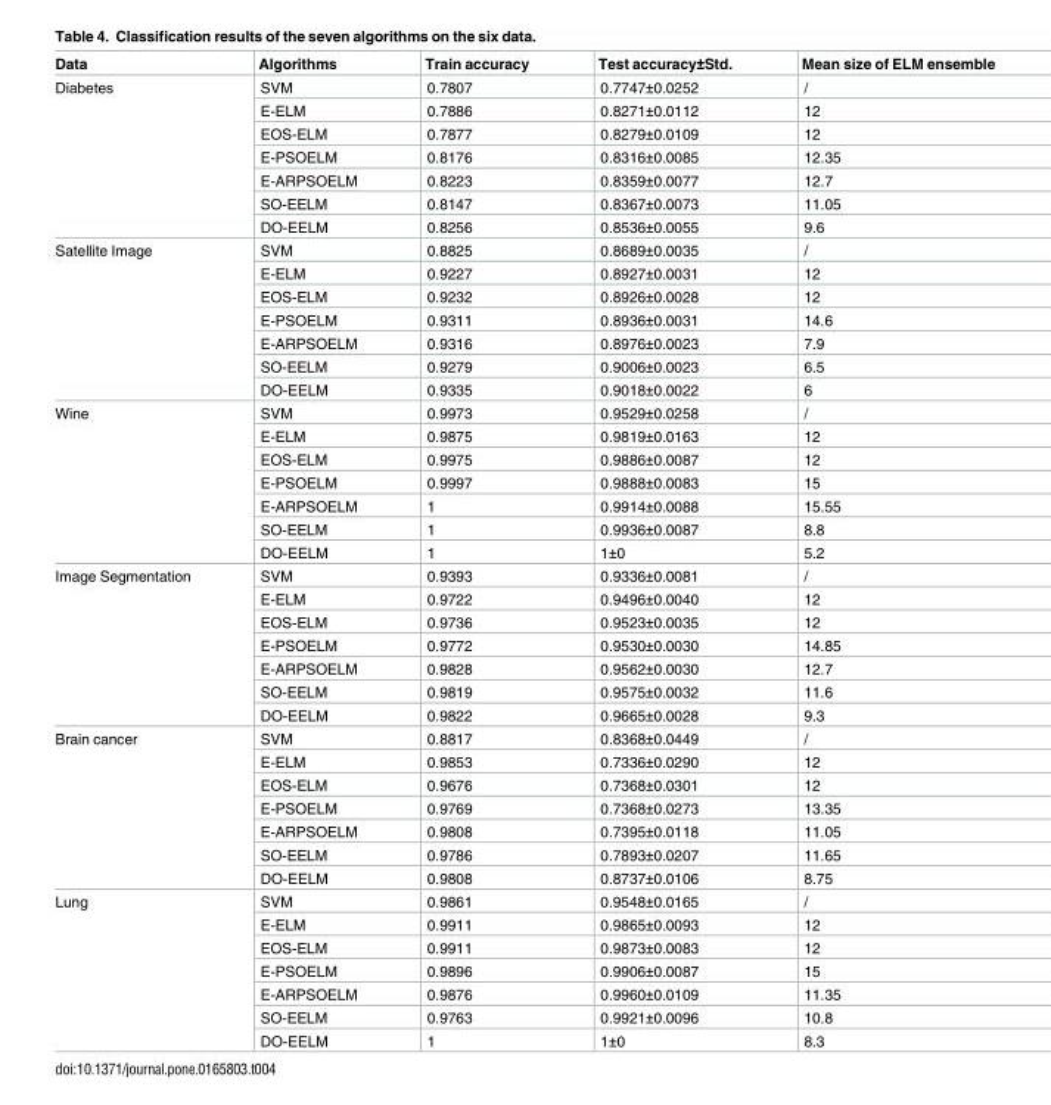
<table><thead><tr><td>Data</td><td>Algorithms</td><td>Train accuracy</td><td>Test accuracy±Std.</td><td>Mean size of ELM ensemble</td></tr></thead><tbody><tr><td rowspan="7">Diabetes</td><td>SVM</td><td>0.7807</td><td>0.7747±0.0252</td><td>/</td></tr><tr><td>E-ELM</td><td>0.7886</td><td>0.8271±0.0112</td><td>12</td></tr><tr><td>EOS-ELM</td><td>0.7877</td><td>0.8279±0.0109</td><td>12</td></tr><tr><td>E-PSOELM</td><td>0.8176</td><td>0.8316±0.0085</td><td>12.35</td></tr><tr><td>E-ARPSOELM</td><td>0.8223</td><td>0.8359±0.0077</td><td>12.7</td></tr><tr><td>SO-EELM</td><td>0.8147</td><td>0.8367±0.0073</td><td>11.05</td></tr><tr><td>DO-EELM</td><td>0.8256</td><td>0.8536±0.0055</td><td>9.6</td></tr><tr><td rowspan="7">Satellite Image</td><td>SVM</td><td>0.8825</td><td>0.8689±0.0035</td><td>/</td></tr><tr><td>E-ELM</td><td>0.9227</td><td>0.8927±0.0031</td><td>12</td></tr><tr><td>EOS-ELM</td><td>0.9232</td><td>0.8926±0.0028</td><td>12</td></tr><tr><td>E-PSOELM</td><td>0.9311</td><td>0.8936±0.0031</td><td>14.6</td></tr><tr><td>E-ARPSOELM</td><td>0.9316</td><td>0.8976±0.0023</td><td>7.9</td></tr><tr><td>SO-EELM</td><td>0.9279</td><td>0.9006±0.0023</td><td>6.5</td></tr><tr><td>DO-EELM</td><td>0.9335</td><td>0.9018±0.0022</td><td>6</td></tr><tr><td rowspan="7">Wine</td><td>SVM</td><td>0.9973</td><td>0.9529±0.0258</td><td>/</td></tr><tr><td>E-ELM</td><td>0.9875</td><td>0.9819±0.0163</td><td>12</td></tr><tr><td>EOS-ELM</td><td>0.9975</td><td>0.9886±0.0087</td><td>12</td></tr><tr><td>E-PSOELM</td><td>0.9997</td><td>0.9888±0.0083</td><td>15</td></tr><tr><td>E-ARPSOELM</td><td>1</td><td>0.9914±0.0088</td><td>15.55</td></tr><tr><td>SO-EELM</td><td>1</td><td>0.9936±0.0087</td><td>8.8</td></tr><tr><td>DO-EELM</td><td>1</td><td>1±0</td><td>5.2</td></tr><tr><td rowspan="7">Image Segmentation</td><td>SVM</td><td>0.9393</td><td>0.9336±0.0081</td><td>/</td></tr><tr><td>E-ELM</td><td>0.9722</td><td>0.9496±0.0040</td><td>12</td></tr><tr><td>EOS-ELM</td><td>0.9736</td><td>0.9523±0.0035</td><td>12</td></tr><tr><td>E-PSOELM</td><td>0.9772</td><td>0.9530±0.0030</td><td>14.85</td></tr><tr><td>E-ARPSOELM</td><td>0.9828</td><td>0.9562±0.0030</td><td>12.7</td></tr><tr><td>SO-EELM</td><td>0.9819</td><td>0.9575±0.0032</td><td>11.6</td></tr><tr><td>DO-EELM</td><td>0.9822</td><td>0.9665±0.0028</td><td>9.3</td></tr><tr><td rowspan="7">Brain cancer</td><td>SVM</td><td>0.8817</td><td>0.8368±0.0449</td><td>/</td></tr><tr><td>E-ELM</td><td>0.9853</td><td>0.7336±0.0290</td><td>12</td></tr><tr><td>EOS-ELM</td><td>0.9676</td><td>0.7368±0.0301</td><td>12</td></tr><tr><td>E-PSOELM</td><td>0.9769</td><td>0.7368±0.0273</td><td>13.35</td></tr><tr><td>E-ARPSOELM</td><td>0.9808</td><td>0.7395±0.0118</td><td>11.05</td></tr><tr><td>SO-EELM</td><td>0.9786</td><td>0.7893±0.0207</td><td>11.65</td></tr><tr><td>DO-EELM</td><td>0.9808</td><td>0.8737±0.0106</td><td>8.75</td></tr><tr><td rowspan="7">Lung</td><td>SVM</td><td>0.9861</td><td>0.9548±0.0165</td><td>/</td></tr><tr><td>E-ELM</td><td>0.9911</td><td>0.9865±0.0093</td><td>12</td></tr><tr><td>EOS-ELM</td><td>0.9911</td><td>0.9873±0.0083</td><td>12</td></tr><tr><td>E-PSOELM</td><td>0.9896</td><td>0.9906±0.0087</td><td>15</td></tr><tr><td>E-ARPSOELM</td><td>0.9876</td><td>0.9960±0.0109</td><td>11.35</td></tr><tr><td>SO-EELM</td><td>0.9763</td><td>0.9921±0.0096</td><td>10.8</td></tr><tr><td>DO-EELM</td><td>1</td><td>1±0</td><td>8.3</td></tr></tbody></table>